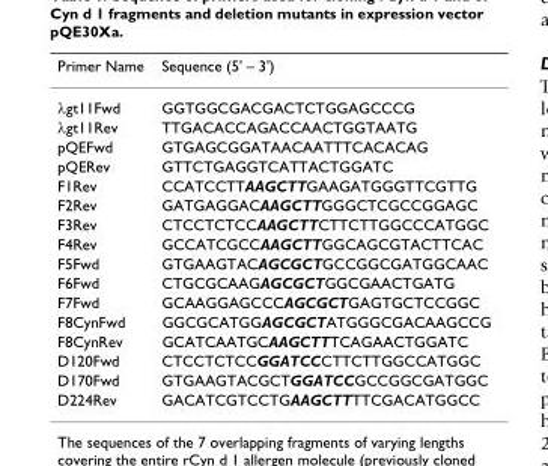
<table><thead><tr><td>Primer Name</td><td>Sequence (5&#x27; – 3&#x27;)</td></tr></thead><tbody><tr><td>λgt11Fwd</td><td>GGTGGCGACGACTCTGGAGCCCG</td></tr><tr><td>λgt11Rev</td><td>TTGACACCAGACCAACTGGTAATG</td></tr><tr><td>pQEFwd</td><td>GTGAGCGGATAACAATTTCACACAG</td></tr><tr><td>pQERev</td><td>GTTCTGAGGTCATTACTGGATC</td></tr><tr><td>F1Rev</td><td>CCATCCTTAAGCTTGAAGATGGGTTCGTTG</td></tr><tr><td>F2Rev</td><td>GATGAGGACAAGCTTGGGCTCGCCGGAGC</td></tr><tr><td>F3Rev</td><td>CTCCTCTCCAAGCTTCTTCTTGGCCCATGGC</td></tr><tr><td>F4Rev</td><td>GCCATCGCCAAGCTTGGCAGCGTACTTCAC</td></tr><tr><td>F5Fwd</td><td>GTGAAGTACAGCGCTGCCGGCGATGGCAAC</td></tr><tr><td>F6Fwd</td><td>CTGCGCAAGAGCGCTGGCGAACTGATG</td></tr><tr><td>F7Fwd</td><td>GCAAGGAGCCCAGCGCTGAGTGCTCCGGC</td></tr><tr><td>F8CynFwd</td><td>GGCGCATGGAGCGCTATGGGCGACAAGCCG</td></tr><tr><td>F8CynRev</td><td>GCATCAATGCAAGCTTTCAGAACTGGATC</td></tr><tr><td>D120Fwd</td><td>CTCCTCTCCGGATCCCTTCTTGGCCATGGC</td></tr><tr><td>D170Fwd</td><td>GTGAAGTACGCTGGATCCGCCGGCGATGGC</td></tr><tr><td>D224Rev</td><td>GACATCGTCCTGAAGCTTTTCGACATGGCC</td></tr></tbody></table>